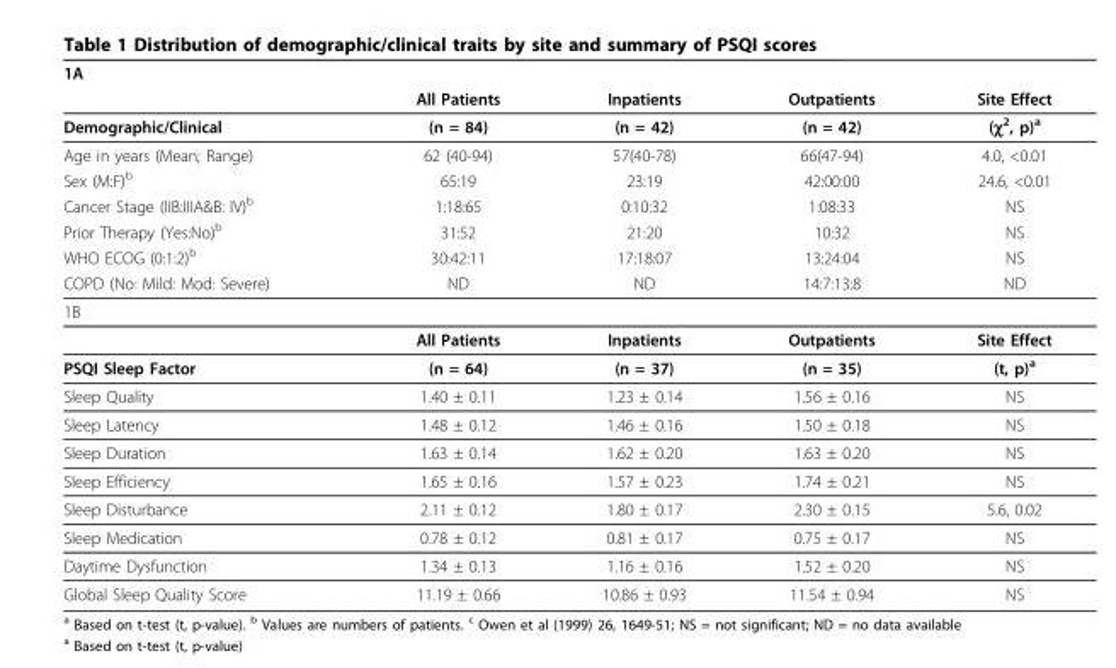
<table><thead><tr><td colspan="5">1A</td></tr><tr><td></td><td>All Patients</td><td>Inpatients</td><td>Outpatients</td><td>Site Effect</td></tr></thead><tbody><tr><td>Demographic/Clinical</td><td>(n = 84)</td><td>(n = 42)</td><td>(n = 42)</td><td>(χ<sup>2</sup>, p)<sup>a</sup></td></tr><tr><td>Age in years (Mean; Range)</td><td>62 (40-94)</td><td>57(40-78)</td><td>66(47-94)</td><td>4.0, &lt;0.01</td></tr><tr><td>Sex (M:F)<sup>b</sup></td><td>65:19</td><td>23:19</td><td>42:00:00</td><td>24.6, &lt;0.01</td></tr><tr><td>Cancer Stage (IIB:IIIA&amp;B: IV)<sup>b</sup></td><td>1:18:65</td><td>0:10:32</td><td>1:08:33</td><td>NS</td></tr><tr><td>Prior Therapy (Yes:No)<sup>b</sup></td><td>31:52</td><td>21:20</td><td>10:32</td><td>NS</td></tr><tr><td>WHO ECOG (0:1:2)<sup>b</sup></td><td>30:42:11</td><td>17:18:07</td><td>13:24:04</td><td>NS</td></tr><tr><td>COPD (No: Mild: Mod: Severe)</td><td>ND</td><td>ND</td><td>14:7:13:8</td><td>ND</td></tr><tr><td colspan="5">1B</td></tr><tr><td></td><td>All Patients</td><td>Inpatients</td><td>Outpatients</td><td>Site Effect</td></tr><tr><td>PSQI Sleep Factor</td><td>(n = 64)</td><td>(n = 37)</td><td>(n = 35)</td><td>(t, p)<sup>a</sup></td></tr><tr><td>Sleep Quality</td><td>1.40 ± 0.11</td><td>1.23 ± 0.14</td><td>1.56 ± 0.16</td><td>NS</td></tr><tr><td>Sleep Latency</td><td>1.48 ± 0.12</td><td>1.46 ± 0.16</td><td>1.50 ± 0.18</td><td>NS</td></tr><tr><td>Sleep Duration</td><td>1.63 ± 0.14</td><td>1.62 ± 0.20</td><td>1.63 ± 0.20</td><td>NS</td></tr><tr><td>Sleep Efficiency</td><td>1.65 ± 0.16</td><td>1.57 ± 0.23</td><td>1.74 ± 0.21</td><td>NS</td></tr><tr><td>Sleep Disturbance</td><td>2.11 ± 0.12</td><td>1.80 ± 0.17</td><td>2.30 ± 0.15</td><td>5.6, 0.02</td></tr><tr><td>Sleep Medication</td><td>0.78 ± 0.12</td><td>0.81 ± 0.17</td><td>0.75 ± 0.17</td><td>NS</td></tr><tr><td>Daytime Dysfunction</td><td>1.34 ± 0.13</td><td>1.16 ± 0.16</td><td>1.52 ± 0.20</td><td>NS</td></tr><tr><td>Global Sleep Quality Score</td><td>11.19 ± 0.66</td><td>10.86 ± 0.93</td><td>11.54 ± 0.94</td><td>NS</td></tr></tbody></table>